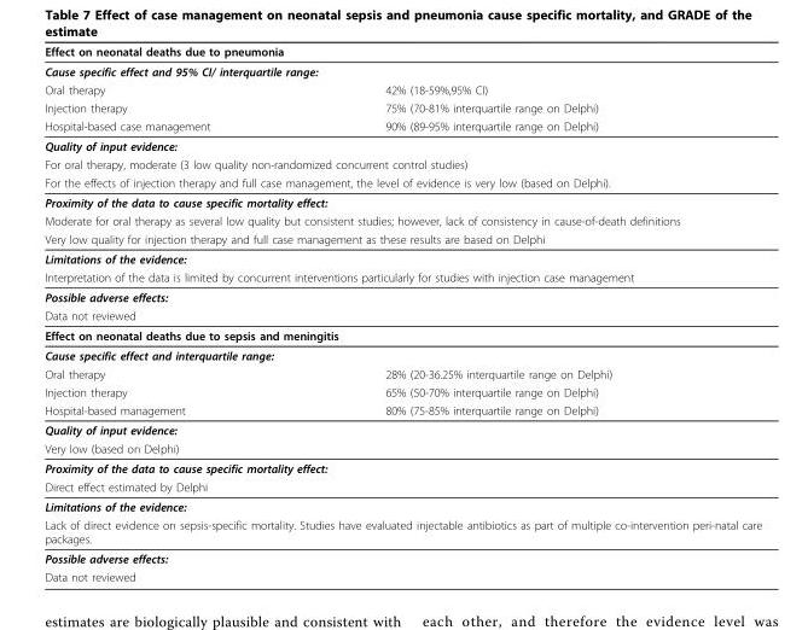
<table><thead><tr><td rowspan="2" colspan="2">Effect on neonatal deaths due to pneumonia Cause specific effect and 95% CI/ interquartile range:</td></tr><tr></tr><tr><td>Oral therapy</td><td>42% (18-59%,95% CI)</td></tr></thead><tbody><tr><td>Injection therapy</td><td>75% (70-81% interquartile range on Delphi)</td></tr><tr><td>Hospital-based case management</td><td>90% (89-95% interquartile range on Delphi)</td></tr><tr><td colspan="2">Quality of input evidence:</td></tr><tr><td colspan="2">For oral therapy, moderate (3 low quality non-randomized concurrent control studies)</td></tr><tr><td colspan="2">For the effects of injection therapy and full case management, the level of evidence is very low (based on Delphi).</td></tr><tr><td colspan="2">Proximity of the data to cause specific mortality effect:</td></tr><tr><td colspan="2">Moderate for oral therapy as several low quality but consistent studies; however, lack of consistency in cause-of-death definitions</td></tr><tr><td colspan="2">Very low quality for injection therapy and full case management as these results are based on Delphi</td></tr><tr><td colspan="2">Limitations of the evidence:</td></tr><tr><td colspan="2">Interpretation of the data is limited by concurrent interventions particularly for studies with injection case management</td></tr><tr><td colspan="2">Possible adverse effects:</td></tr><tr><td colspan="2">Data not reviewed</td></tr><tr><td colspan="2">Effect on neonatal deaths due to sepsis and meningitis</td></tr><tr><td colspan="2">Cause specific effect and interquartile range:</td></tr><tr><td>Oral therapy</td><td>28% (20-36.25% interquartile range on Delphi)</td></tr><tr><td>Injection therapy</td><td>65% (50-70% interquartile range on Delphi)</td></tr><tr><td>Hospital-based management</td><td>80% (75-85% interquartile range on Delphi)</td></tr><tr><td colspan="2">Quality of input evidence:</td></tr><tr><td colspan="2">Very low (based on Delphi)</td></tr><tr><td colspan="2">Proximity of the data to cause specific mortality effect:</td></tr><tr><td colspan="2">Direct effect estimated by Delphi</td></tr><tr><td colspan="2">Limitations of the evidence:</td></tr><tr><td colspan="2">Lack of direct evidence on sepsis-specific mortality. Studies have evaluated injectable antibiotics as part of multiple co-intervention peri-natal care packages.</td></tr><tr><td colspan="2">Possible adverse effects:</td></tr><tr><td colspan="2">Data not reviewed</td></tr></tbody></table>